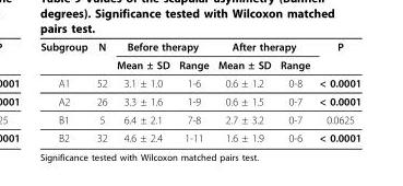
<table><thead><tr><td rowspan="2">Subgroup</td><td rowspan="2">N</td><td colspan="2">Before therapy</td><td colspan="2">After therapy</td><td rowspan="2">P</td></tr><tr><td>Mean ± SD</td><td>Range</td><td>Mean ± SD</td><td>Range</td></tr></thead><tbody><tr><td>A1</td><td>52</td><td>3.1 ± 1.0</td><td>1-6</td><td>0.6 ± 1.2</td><td>0-8</td><td>&lt; 0.0001</td></tr><tr><td>A2</td><td>26</td><td>3.3 ± 1.6</td><td>1-9</td><td>0.6 ± 1.5</td><td>0-7</td><td>&lt; 0.0001</td></tr><tr><td>B1</td><td>5</td><td>6.4 ± 2.1</td><td>7-8</td><td>2.7 ± 3.2</td><td>0-7</td><td>0.0625</td></tr><tr><td>B2</td><td>32</td><td>4.6 ± 2.4</td><td>1-11</td><td>1.6 ± 1.9</td><td>0-6</td><td>&lt; 0.0001</td></tr></tbody></table>